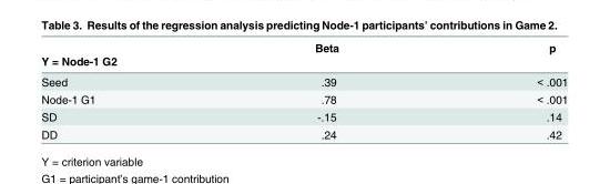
<table><thead><tr><td rowspan="2">Y = Node-1 G2</td><td rowspan="2">Beta</td><td rowspan="2">p</td></tr><tr></tr></thead><tbody><tr><td>Seed</td><td>.39</td><td>&lt; .001</td></tr><tr><td>Node-1 G1</td><td>.78</td><td>&lt; .001</td></tr><tr><td>SD</td><td>-.15</td><td>.14</td></tr><tr><td>DD</td><td>.24</td><td>.42</td></tr></tbody></table>